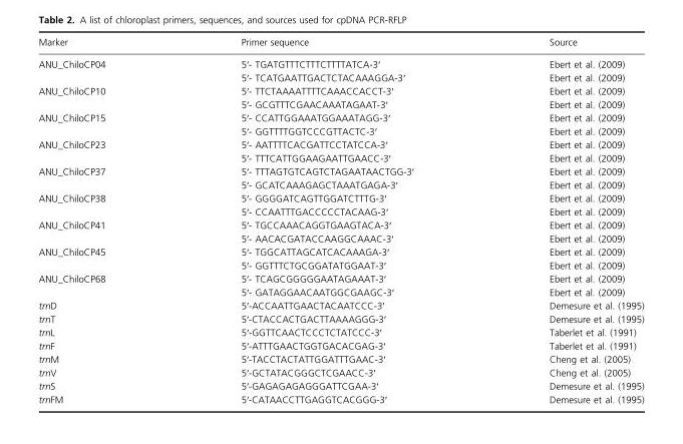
<table><thead><tr><td>Marker</td><td>Primer sequence</td><td>Source</td></tr></thead><tbody><tr><td rowspan="2">ANU_ChiloCP04</td><td>5′- TGATGTTTCTTTCTTTTATCA-3′</td><td>Ebert et al. (2009)</td></tr><tr><td>5′- TCATGAATTGACTCTACAAAGGA-3′</td><td>Ebert et al. (2009)</td></tr><tr><td rowspan="2">ANU_ChiloCP10</td><td>5′- TTCTAAAATTTTCAAACCACCT-3′</td><td>Ebert et al. (2009)</td></tr><tr><td>5′- GCGTTTCGAACAAATAGAAT-3′</td><td>Ebert et al. (2009)</td></tr><tr><td rowspan="2">ANU_ChiloCP15</td><td>5′- CCATTGGAAATGGAAATAGG-3′</td><td>Ebert et al. (2009)</td></tr><tr><td>5′- GGTTTTGGTCCCGTTACTC-3′</td><td>Ebert et al. (2009)</td></tr><tr><td rowspan="2">ANU_ChiloCP23</td><td>5′- AATTTTCACGATTCCTATCCA-3′</td><td>Ebert et al. (2009)</td></tr><tr><td>5′- TTTCATTGGAAGAATTGAACC-3′</td><td>Ebert et al. (2009)</td></tr><tr><td rowspan="2">ANU_ChiloCP37</td><td>5′- TTTAGTGTCAGTCTAGAATAACTGG-3′</td><td>Ebert et al. (2009)</td></tr><tr><td>5′- GCATCAAAGAGCTAAATGAGA-3′</td><td>Ebert et al. (2009)</td></tr><tr><td rowspan="2">ANU_ChiloCP38</td><td>5′- GGGGATCAGTTGGATCTTTG-3′</td><td>Ebert et al. (2009)</td></tr><tr><td>5′- CCAATTTGACCCCCTACAAG-3′</td><td>Ebert et al. (2009)</td></tr><tr><td rowspan="2">ANU_ChiloCP41</td><td>5′- TGCCAAACAGGTGAAGTACA-3′</td><td>Ebert et al. (2009)</td></tr><tr><td>5′- AACACGATACCAAGGCAAAC-3′</td><td>Ebert et al. (2009)</td></tr><tr><td rowspan="2">ANU_ChiloCP45</td><td>5′- TGGCATTAGCATCACAAAGA-3′</td><td>Ebert et al. (2009)</td></tr><tr><td>5′- GGTTTCTGCGGATATGGAAT-3′</td><td>Ebert et al. (2009)</td></tr><tr><td rowspan="2">ANU_ChiloCP68</td><td>5′- TCAGCGGGGGAATAGAAAT-3′</td><td>Ebert et al. (2009)</td></tr><tr><td>5′- GATAGGAACAATGGCGAAGC-3′</td><td>Ebert et al. (2009)</td></tr><tr><td>trnD</td><td>5′-ACCAATTGAACTACAATCCC-3′</td><td>Demesure et al. (1995)</td></tr><tr><td>trnT</td><td>5′-CTACCACTGACTTAAAAGGG-3′</td><td>Demesure et al. (1995)</td></tr><tr><td>trnL</td><td>5′-GGTTCAACTCCCTCTATCCC-3′</td><td>Taberlet et al. (1991)</td></tr><tr><td>trnF</td><td>5′-ATTTGAACTGGTGACACGAG-3′</td><td>Taberlet et al. (1991)</td></tr><tr><td>trnM</td><td>5′-TACCTACTATTGGATTTGAAC-3′</td><td>Cheng et al. (2005)</td></tr><tr><td>trnV</td><td>5′-GCTATACGGGCTCGAACC-3′</td><td>Cheng et al. (2005)</td></tr><tr><td>trnS</td><td>5′-GAGAGAGAGGGATTCGAA-3′</td><td>Demesure et al. (1995)</td></tr><tr><td>trnFM</td><td>5′-CATAACCTTGAGGTCACGGG-3′</td><td>Demesure et al. (1995)</td></tr></tbody></table>